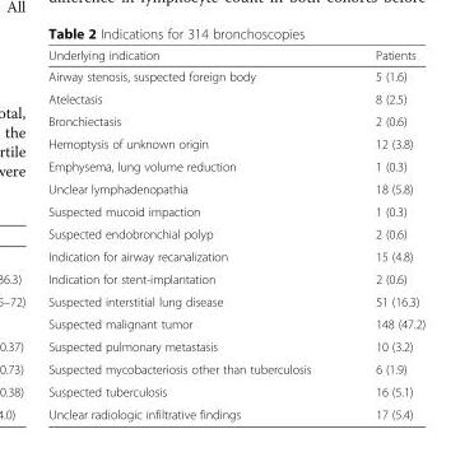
<table><thead><tr><td>Underlying indication</td><td>Patients</td></tr></thead><tbody><tr><td>Airway stenosis, suspected foreign body</td><td>5 (1.6)</td></tr><tr><td>Atelectasis</td><td>8 (2.5)</td></tr><tr><td>Bronchiectasis</td><td>2 (0.6)</td></tr><tr><td>Hemoptysis of unknown origin</td><td>12 (3.8)</td></tr><tr><td>Emphysema, lung volume reduction</td><td>1 (0.3)</td></tr><tr><td>Unclear lymphadenopathia</td><td>18 (5.8)</td></tr><tr><td>Suspected mucoid impaction</td><td>1 (0.3)</td></tr><tr><td>Suspected endobronchial polyp</td><td>2 (0.6)</td></tr><tr><td>Indication for airway recanalization</td><td>15 (4.8)</td></tr><tr><td>Indication for stent-implantation</td><td>2 (0.6)</td></tr><tr><td>Suspected interstitial lung disease</td><td>51 (16.3)</td></tr><tr><td>Suspected malignant tumor</td><td>148 (47.2)</td></tr><tr><td>Suspected pulmonary metastasis</td><td>10 (3.2)</td></tr><tr><td>Suspected mycobacteriosis other than tuberculosis</td><td>6 (1.9)</td></tr><tr><td>Suspected tuberculosis</td><td>16 (5.1)</td></tr><tr><td>Unclear radiologic infiltrative findings</td><td>17 (5.4)</td></tr></tbody></table>